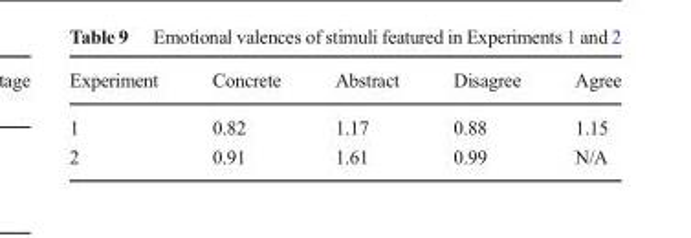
<table><thead><tr><td>Experiment</td><td>Concrete</td><td>Abstract</td><td>Disagree</td><td>Agree</td></tr></thead><tbody><tr><td>1</td><td>0.82</td><td>1.17</td><td>0.88</td><td>1.15</td></tr><tr><td>2</td><td>0.91</td><td>1.61</td><td>0.99</td><td>N/A</td></tr></tbody></table>